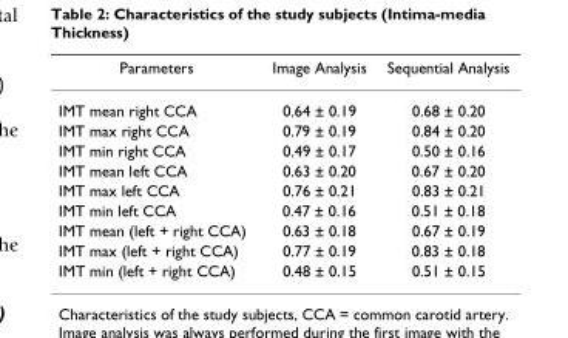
<table><thead><tr><td>Parameters</td><td>Image Analysis</td><td>Sequential Analysis</td></tr></thead><tbody><tr><td>IMT mean right CCA</td><td>0.64 ± 0.19</td><td>0.68 ± 0.20</td></tr><tr><td>IMT max right CCA</td><td>0.79 ± 0.19</td><td>0.84 ± 0.20</td></tr><tr><td>IMT min right CCA</td><td>0.49 ± 0.17</td><td>0.50 ± 0.16</td></tr><tr><td>IMT mean left CCA</td><td>0.63 ± 0.20</td><td>0.67 ± 0.20</td></tr><tr><td>IMT max left CCA</td><td>0.76 ± 0.21</td><td>0.83 ± 0.21</td></tr><tr><td>IMT min left CCA</td><td>0.47 ± 0.16</td><td>0.51 ± 0.18</td></tr><tr><td>IMT mean (left + right CCA)</td><td>0.63 ± 0.18</td><td>0.67 ± 0.19</td></tr><tr><td>IMT max (left + right CCA)</td><td>0.77 ± 0.19</td><td>0.83 ± 0.18</td></tr><tr><td>IMT min (left + right CCA)</td><td>0.48 ± 0.15</td><td>0.51 ± 0.15</td></tr></tbody></table>